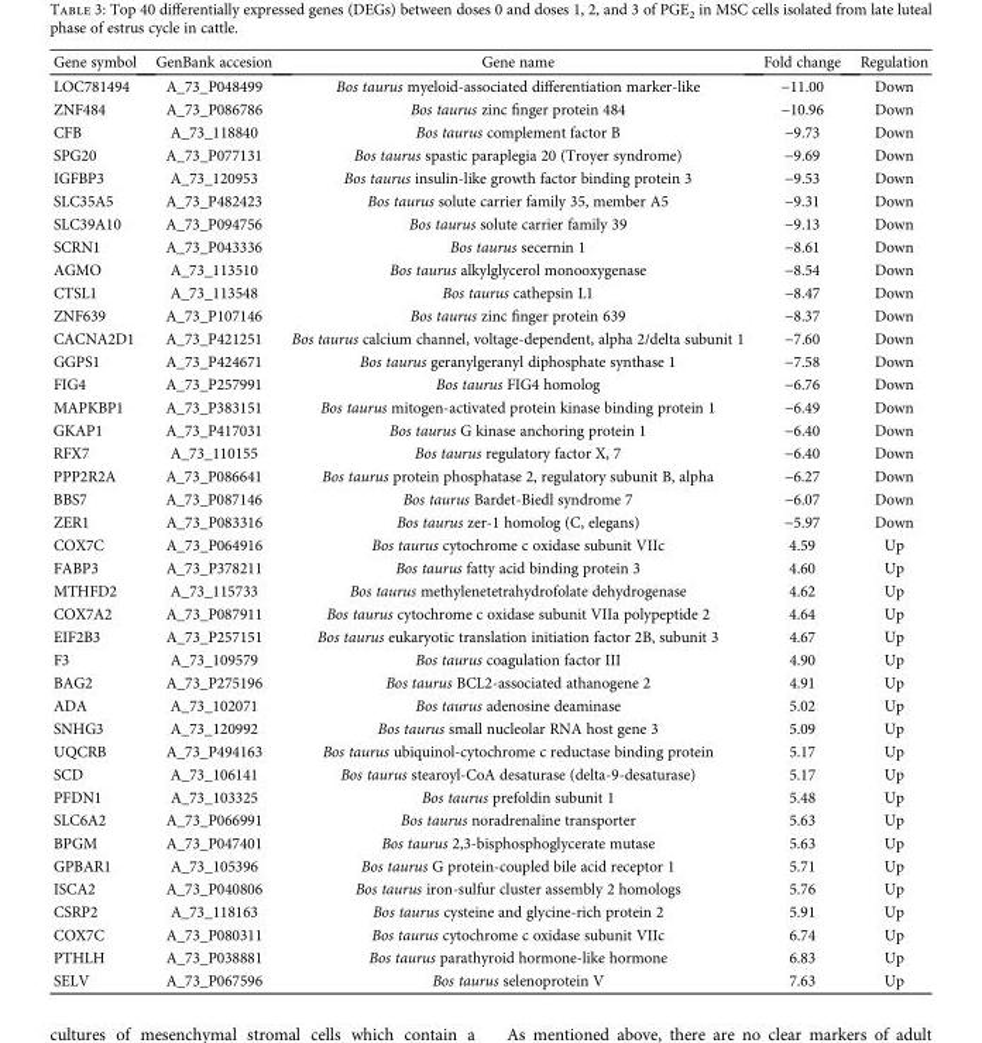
<table><thead><tr><td>Gene symbol</td><td>GenBank accesion</td><td>Gene name</td><td>Fold change</td><td>Regulation</td></tr></thead><tbody><tr><td>LOC781494</td><td>A_73_P048499</td><td>Bos taurus myeloid-associated differentiation marker-like</td><td>−11.00</td><td>Down</td></tr><tr><td>ZNF484</td><td>A_73_P086786</td><td>Bos taurus zinc finger protein 484</td><td>−10.96</td><td>Down</td></tr><tr><td>CFB</td><td>A_73_118840</td><td>Bos taurus complement factor B</td><td>−9.73</td><td>Down</td></tr><tr><td>SPG20</td><td>A_73_P077131</td><td>Bos taurus spastic paraplegia 20 (Troyer syndrome)</td><td>−9.69</td><td>Down</td></tr><tr><td>IGFBP3</td><td>A_73_120953</td><td>Bos taurus insulin-like growth factor binding protein 3</td><td>−9.53</td><td>Down</td></tr><tr><td>SLC35A5</td><td>A_73_P482423</td><td>Bos taurus solute carrier family 35, member A5</td><td>−9.31</td><td>Down</td></tr><tr><td>SLC39A10</td><td>A_73_P094756</td><td>Bos taurus solute carrier family 39</td><td>−9.13</td><td>Down</td></tr><tr><td>SCRN1</td><td>A_73_P043336</td><td>Bos taurus secernin 1</td><td>−8.61</td><td>Down</td></tr><tr><td>AGMO</td><td>A_73_113510</td><td>Bos taurus alkylglycerol monooxygenase</td><td>−8.54</td><td>Down</td></tr><tr><td>CTSL1</td><td>A_73_113548</td><td>Bos taurus cathepsin L1</td><td>−8.47</td><td>Down</td></tr><tr><td>ZNF639</td><td>A_73_P107146</td><td>Bos taurus zinc finger protein 639</td><td>−8.37</td><td>Down</td></tr><tr><td>CACNA2D1</td><td>A_73_P421251</td><td>Bos taurus calcium channel, voltage-dependent, alpha 2/delta subunit 1</td><td>−7.60</td><td>Down</td></tr><tr><td>GGPS1</td><td>A_73_P424671</td><td>Bos taurus geranylgeranyl diphosphate synthase 1</td><td>−7.58</td><td>Down</td></tr><tr><td>FIG4</td><td>A_73_P257991</td><td>Bos taurus FIG4 homolog</td><td>−6.76</td><td>Down</td></tr><tr><td>MAPKBP1</td><td>A_73_P383151</td><td>Bos taurus mitogen-activated protein kinase binding protein 1</td><td>−6.49</td><td>Down</td></tr><tr><td>GKAP1</td><td>A_73_P417031</td><td>Bos taurus G kinase anchoring protein 1</td><td>−6.40</td><td>Down</td></tr><tr><td>RFX7</td><td>A_73_110155</td><td>Bos taurus regulatory factor X, 7</td><td>−6.40</td><td>Down</td></tr><tr><td>PPP2R2A</td><td>A_73_P086641</td><td>Bos taurus protein phosphatase 2, regulatory subunit B, alpha</td><td>−6.27</td><td>Down</td></tr><tr><td>BBS7</td><td>A_73_P087146</td><td>Bos taurus Bardet-Biedl syndrome 7</td><td>−6.07</td><td>Down</td></tr><tr><td>ZER1</td><td>A_73_P083316</td><td>Bos taurus zer-1 homolog (C, elegans)</td><td>−5.97</td><td>Down</td></tr><tr><td>COX7C</td><td>A_73_P064916</td><td>Bos taurus cytochrome c oxidase subunit VIIc</td><td>4.59</td><td>Up</td></tr><tr><td>FABP3</td><td>A_73_P378211</td><td>Bos taurus fatty acid binding protein 3</td><td>4.60</td><td>Up</td></tr><tr><td>MTHFD2</td><td>A_73_115733</td><td>Bos taurus methylenetetrahydrofolate dehydrogenase</td><td>4.62</td><td>Up</td></tr><tr><td>COX7A2</td><td>A_73_P087911</td><td>Bos taurus cytochrome c oxidase subunit VIIa polypeptide 2</td><td>4.64</td><td>Up</td></tr><tr><td>EIF2B3</td><td>A_73_P257151</td><td>Bos taurus eukaryotic translation initiation factor 2B, subunit 3</td><td>4.67</td><td>Up</td></tr><tr><td>F3</td><td>A_73_109579</td><td>Bos taurus coagulation factor III</td><td>4.90</td><td>Up</td></tr><tr><td>BAG2</td><td>A_73_P275196</td><td>Bos taurus BCL2-associated athanogene 2</td><td>4.91</td><td>Up</td></tr><tr><td>ADA</td><td>A_73_102071</td><td>Bos taurus adenosine deaminase</td><td>5.02</td><td>Up</td></tr><tr><td>SNHG3</td><td>A_73_120992</td><td>Bos taurus small nucleolar RNA host gene 3</td><td>5.09</td><td>Up</td></tr><tr><td>UQCRB</td><td>A_73_P494163</td><td>Bos taurus ubiquinol-cytochrome c reductase binding protein</td><td>5.17</td><td>Up</td></tr><tr><td>SCD</td><td>A_73_106141</td><td>Bos taurus stearoyl-CoA desaturase (delta-9-desaturase)</td><td>5.17</td><td>Up</td></tr><tr><td>PFDN1</td><td>A_73_103325</td><td>Bos taurus prefoldin subunit 1</td><td>5.48</td><td>Up</td></tr><tr><td>SLC6A2</td><td>A_73_P066991</td><td>Bos taurus noradrenaline transporter</td><td>5.63</td><td>Up</td></tr><tr><td>BPGM</td><td>A_73_P047401</td><td>Bos taurus 2,3-bisphosphoglycerate mutase</td><td>5.63</td><td>Up</td></tr><tr><td>GPBAR1</td><td>A_73_105396</td><td>Bos taurus G protein-coupled bile acid receptor 1</td><td>5.71</td><td>Up</td></tr><tr><td>ISCA2</td><td>A_73_P040806</td><td>Bos taurus iron-sulfur cluster assembly 2 homologs</td><td>5.76</td><td>Up</td></tr><tr><td>CSRP2</td><td>A_73_118163</td><td>Bos taurus cysteine and glycine-rich protein 2</td><td>5.91</td><td>Up</td></tr><tr><td>COX7C</td><td>A_73_P080311</td><td>Bos taurus cytochrome c oxidase subunit VIIc</td><td>6.74</td><td>Up</td></tr><tr><td>PTHLH</td><td>A_73_P038881</td><td>Bos taurus parathyroid hormone-like hormone</td><td>6.83</td><td>Up</td></tr><tr><td>SELV</td><td>A_73_P067596</td><td>Bos taurus selenoprotein V</td><td>7.63</td><td>Up</td></tr></tbody></table>